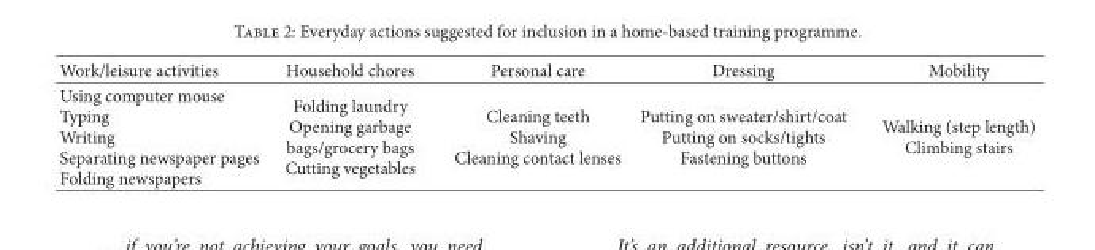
<table><thead><tr><td>Work/leisure activities</td><td>Household chores</td><td>Personal care</td><td>Dressing</td><td>Mobility</td></tr></thead><tbody><tr><td>Using computer mouse Typing Writing Separating newspaper pages Folding newspapers</td><td>Folding laundry Opening garbage bags/grocery bags Cutting vegetables</td><td>Cleaning teeth Shaving Cleaning contact lenses</td><td>Putting on sweater/shirt/coat Putting on socks/tights Fastening buttons</td><td>Walking (step length) Climbing stairs</td></tr></tbody></table>